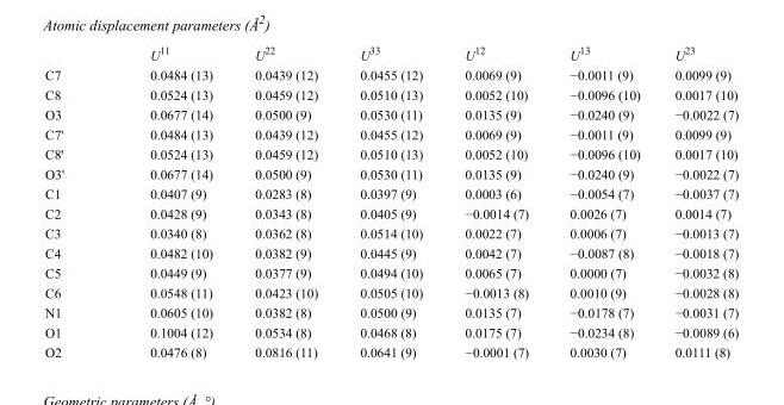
<table><thead><tr><td></td><td>U<sup>11</sup></td><td>U<sup>22</sup></td><td>U<sup>33</sup></td><td>U<sup>12</sup></td><td>U<sup>13</sup></td><td>U<sup>23</sup></td></tr></thead><tbody><tr><td>C7</td><td>0.0484 (13)</td><td>0.0439 (12)</td><td>0.0455 (12)</td><td>0.0069 (9)</td><td>−0.0011 (9)</td><td>0.0099 (9)</td></tr><tr><td>C8</td><td>0.0524 (13)</td><td>0.0459 (12)</td><td>0.0510 (13)</td><td>0.0052 (10)</td><td>−0.0096 (10)</td><td>0.0017 (10)</td></tr><tr><td>O3</td><td>0.0677 (14)</td><td>0.0500 (9)</td><td>0.0530 (11)</td><td>0.0135 (9)</td><td>−0.0240 (9)</td><td>−0.0022 (7)</td></tr><tr><td>C7&#x27;</td><td>0.0484 (13)</td><td>0.0439 (12)</td><td>0.0455 (12)</td><td>0.0069 (9)</td><td>−0.0011 (9)</td><td>0.0099 (9)</td></tr><tr><td>C8&#x27;</td><td>0.0524 (13)</td><td>0.0459 (12)</td><td>0.0510 (13)</td><td>0.0052 (10)</td><td>−0.0096 (10)</td><td>0.0017 (10)</td></tr><tr><td>O3&#x27;</td><td>0.0677 (14)</td><td>0.0500 (9)</td><td>0.0530 (11)</td><td>0.0135 (9)</td><td>−0.0240 (9)</td><td>−0.0022 (7)</td></tr><tr><td>C1</td><td>0.0407 (9)</td><td>0.0283 (8)</td><td>0.0397 (9)</td><td>0.0003 (6)</td><td>−0.0054 (7)</td><td>−0.0037 (7)</td></tr><tr><td>C2</td><td>0.0428 (9)</td><td>0.0343 (8)</td><td>0.0405 (9)</td><td>−0.0014 (7)</td><td>0.0026 (7)</td><td>0.0014 (7)</td></tr><tr><td>C3</td><td>0.0340 (8)</td><td>0.0362 (8)</td><td>0.0514 (10)</td><td>0.0022 (7)</td><td>0.0006 (7)</td><td>−0.0013 (7)</td></tr><tr><td>C4</td><td>0.0482 (10)</td><td>0.0382 (9)</td><td>0.0445 (9)</td><td>0.0042 (7)</td><td>−0.0087 (8)</td><td>−0.0018 (7)</td></tr><tr><td>C5</td><td>0.0449 (9)</td><td>0.0377 (9)</td><td>0.0494 (10)</td><td>0.0065 (7)</td><td>0.0000 (7)</td><td>−0.0032 (8)</td></tr><tr><td>C6</td><td>0.0548 (11)</td><td>0.0423 (10)</td><td>0.0505 (10)</td><td>−0.0013 (8)</td><td>0.0010 (9)</td><td>−0.0028 (8)</td></tr><tr><td>N1</td><td>0.0605 (10)</td><td>0.0382 (8)</td><td>0.0500 (9)</td><td>0.0135 (7)</td><td>−0.0178 (7)</td><td>−0.0031 (7)</td></tr><tr><td>O1</td><td>0.1004 (12)</td><td>0.0534 (8)</td><td>0.0468 (8)</td><td>0.0175 (7)</td><td>−0.0234 (8)</td><td>−0.0089 (6)</td></tr><tr><td>O2</td><td>0.0476 (8)</td><td>0.0816 (11)</td><td>0.0641 (9)</td><td>−0.0001 (7)</td><td>0.0030 (7)</td><td>0.0111 (8)</td></tr></tbody></table>